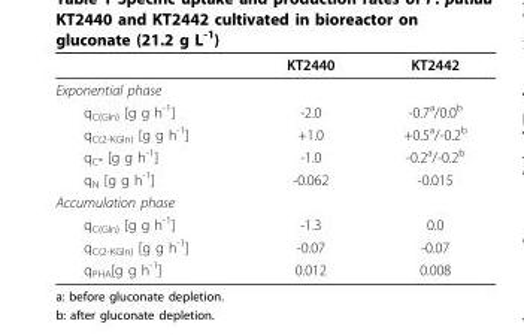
<table><thead><tr><td></td><td>KT2440</td><td>KT2442</td></tr></thead><tbody><tr><td colspan="3">Exponential phase</td></tr><tr><td>q<sub>C(Gln)</sub> [g g h<sup>-1</sup>]</td><td>-2.0</td><td>-0.7<sup>a</sup>/0.0<sup>b</sup></td></tr><tr><td>q<sub>C(2-KGln)</sub> [g g h<sup>-1</sup>]</td><td>+1.0</td><td>+0.5<sup>a</sup>/-0.2<sup>b</sup></td></tr><tr><td>q<sub>C*</sub> [g g h<sup>-1</sup>]</td><td>-1.0</td><td>-0.2<sup>a</sup>/-0.2<sup>b</sup></td></tr><tr><td>q<sub>N</sub> [g g h<sup>-1</sup>]</td><td>-0.062</td><td>-0.015</td></tr><tr><td colspan="3">Accumulation phase</td></tr><tr><td>q<sub>C(Gln)</sub> [g g h<sup>-1</sup>]</td><td>-1.3</td><td>0.0</td></tr><tr><td>q<sub>C(2-KGln)</sub> [g g h<sup>-1</sup>]</td><td>-0.07</td><td>-0.07</td></tr><tr><td>q<sub>PHA</sub>[g g h<sup>-1</sup>]</td><td>0.012</td><td>0.008</td></tr></tbody></table>